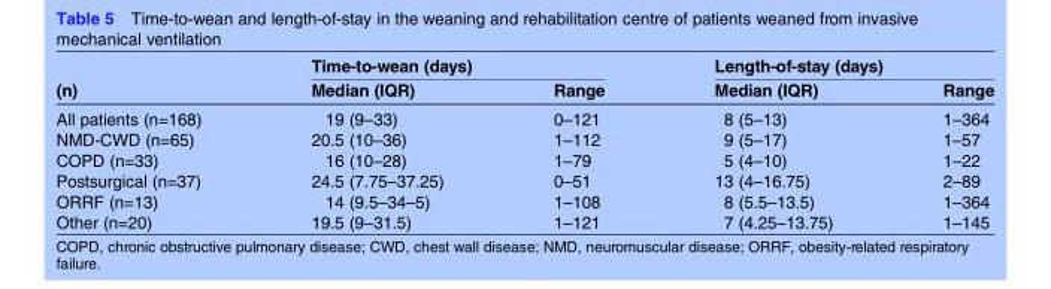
<table><thead><tr><td rowspan="2">(n)</td><td colspan="2">Time-to-wean (days)</td><td colspan="2">Length-of-stay (days)</td></tr><tr><td>Median (IQR)</td><td>Range</td><td>Median (IQR)</td><td>Range</td></tr></thead><tbody><tr><td>All patients (n=168)</td><td>19 (9–33)</td><td>0–121</td><td>8 (5–13)</td><td>1–364</td></tr><tr><td>NMD-CWD (n=65)</td><td>20.5 (10–36)</td><td>1–112</td><td>9 (5–17)</td><td>1–57</td></tr><tr><td>COPD (n=33)</td><td>16 (10–28)</td><td>1–79</td><td>5 (4–10)</td><td>1–22</td></tr><tr><td>Postsurgical (n=37)</td><td>24.5 (7.75–37.25)</td><td>0–51</td><td>13 (4–16.75)</td><td>2–89</td></tr><tr><td>ORRF (n=13)</td><td>14 (9.5–34–5)</td><td>1–108</td><td>8 (5.5–13.5)</td><td>1–364</td></tr><tr><td>Other (n=20)</td><td>19.5 (9–31.5)</td><td>1–121</td><td>7 (4.25–13.75)</td><td>1–145</td></tr></tbody></table>